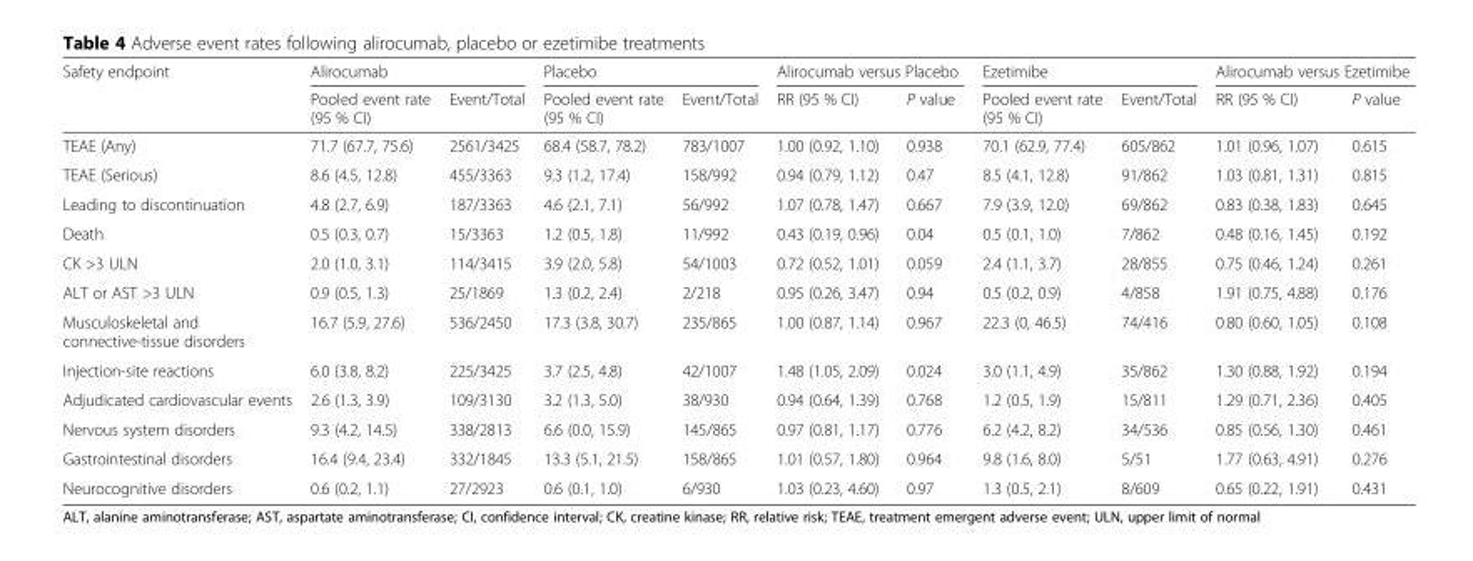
<table><thead><tr><td rowspan="2">Safety endpoint</td><td colspan="2">Alirocumab</td><td colspan="2">Placebo</td><td colspan="2">Alirocumab versus Placebo</td><td colspan="2">Ezetimibe</td><td colspan="2">Alirocumab versus Ezetimibe</td></tr><tr><td>Pooled event rate (95 % CI)</td><td>Event/Total</td><td>Pooled event rate (95 % CI)</td><td>Event/Total</td><td>RR (95 % CI)</td><td>P value</td><td>Pooled event rate (95 % CI)</td><td>Event/Total</td><td>RR (95 % CI)</td><td>P value</td></tr></thead><tbody><tr><td>TEAE (Any)</td><td>71.7 (67.7, 75.6)</td><td>2561/3425</td><td>68.4 (58.7, 78.2)</td><td>783/1007</td><td>1.00 (0.92, 1.10)</td><td>0.938</td><td>70.1 (62.9, 77.4)</td><td>605/862</td><td>1.01 (0.96, 1.07)</td><td>0.615</td></tr><tr><td>TEAE (Serious)</td><td>8.6 (4.5, 12.8)</td><td>455/3363</td><td>9.3 (1.2, 17.4)</td><td>158/992</td><td>0.94 (0.79, 1.12)</td><td>0.47</td><td>8.5 (4.1, 12.8)</td><td>91/862</td><td>1.03 (0.81, 1.31)</td><td>0.815</td></tr><tr><td>Leading to discontinuation</td><td>4.8 (2.7, 6.9)</td><td>187/3363</td><td>4.6 (2.1, 7.1)</td><td>56/992</td><td>1.07 (0.78, 1.47)</td><td>0.667</td><td>7.9 (3.9, 12.0)</td><td>69/862</td><td>0.83 (0.38, 1.83)</td><td>0.645</td></tr><tr><td>Death</td><td>0.5 (0.3, 0.7)</td><td>15/3363</td><td>1.2 (0.5, 1.8)</td><td>11/992</td><td>0.43 (0.19, 0.96)</td><td>0.04</td><td>0.5 (0.1, 1.0)</td><td>7/862</td><td>0.48 (0.16, 1.45)</td><td>0.192</td></tr><tr><td>CK &gt;3 ULN</td><td>2.0 (1.0, 3.1)</td><td>114/3415</td><td>3.9 (2.0, 5.8)</td><td>54/1003</td><td>0.72 (0.52, 1.01)</td><td>0.059</td><td>2.4 (1.1, 3.7)</td><td>28/855</td><td>0.75 (0.46, 1.24)</td><td>0.261</td></tr><tr><td>ALT or AST &gt;3 ULN</td><td>0.9 (0.5, 1.3)</td><td>25/1869</td><td>1.3 (0.2, 2.4)</td><td>2/218</td><td>0.95 (0.26, 3.47)</td><td>0.94</td><td>0.5 (0.2, 0.9)</td><td>4/858</td><td>1.91 (0.75, 4.88)</td><td>0.176</td></tr><tr><td>Musculoskeletal and connective-tissue disorders</td><td>16.7 (5.9, 27.6)</td><td>536/2450</td><td>17.3 (3.8, 30.7)</td><td>235/865</td><td>1.00 (0.87, 1.14)</td><td>0.967</td><td>22.3 (0, 46.5)</td><td>74/416</td><td>0.80 (0.60, 1.05)</td><td>0.108</td></tr><tr><td>Injection-site reactions</td><td>6.0 (3.8, 8.2)</td><td>225/3425</td><td>3.7 (2.5, 4.8)</td><td>42/1007</td><td>1.48 (1.05, 2.09)</td><td>0.024</td><td>3.0 (1.1, 4.9)</td><td>35/862</td><td>1.30 (0.88, 1.92)</td><td>0.194</td></tr><tr><td>Adjudicated cardiovascular events</td><td>2.6 (1.3, 3.9)</td><td>109/3130</td><td>3.2 (1.3, 5.0)</td><td>38/930</td><td>0.94 (0.64, 1.39)</td><td>0.768</td><td>1.2 (0.5, 1.9)</td><td>15/811</td><td>1.29 (0.71, 2.36)</td><td>0.405</td></tr><tr><td>Nervous system disorders</td><td>9.3 (4.2, 14.5)</td><td>338/2813</td><td>6.6 (0.0, 15.9)</td><td>145/865</td><td>0.97 (0.81, 1.17)</td><td>0.776</td><td>6.2 (4.2, 8.2)</td><td>34/536</td><td>0.85 (0.56, 1.30)</td><td>0.461</td></tr><tr><td>Gastrointestinal disorders</td><td>16.4 (9.4, 23.4)</td><td>332/1845</td><td>13.3 (5.1, 21.5)</td><td>158/865</td><td>1.01 (0.57, 1.80)</td><td>0.964</td><td>9.8 (1.6, 8.0)</td><td>5/51</td><td>1.77 (0.63, 4.91)</td><td>0.276</td></tr><tr><td>Neurocognitive disorders</td><td>0.6 (0.2, 1.1)</td><td>27/2923</td><td>0.6 (0.1, 1.0)</td><td>6/930</td><td>1.03 (0.23, 4.60)</td><td>0.97</td><td>1.3 (0.5, 2.1)</td><td>8/609</td><td>0.65 (0.22, 1.91)</td><td>0.431</td></tr></tbody></table>